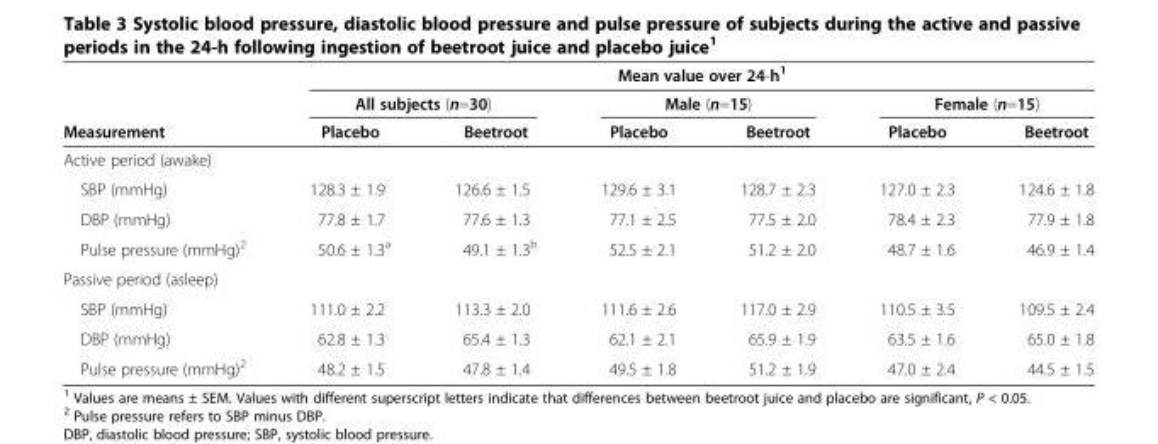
<table><thead><tr><td rowspan="3">Measurement</td><td colspan="6">Mean value over 24-h<sup>1</sup></td></tr><tr><td colspan="2">All subjects (n=30)</td><td colspan="2">Male (n=15)</td><td colspan="2">Female (n=15)</td></tr><tr><td>Placebo</td><td>Beetroot</td><td>Placebo</td><td>Beetroot</td><td>Placebo</td><td>Beetroot</td></tr></thead><tbody><tr><td colspan="7">Active period (awake)</td></tr><tr><td>SBP (mmHg)</td><td>128.3 ± 1.9</td><td>126.6 ± 1.5</td><td>129.6 ± 3.1</td><td>128.7 ± 2.3</td><td>127.0 ± 2.3</td><td>124.6 ± 1.8</td></tr><tr><td>DBP (mmHg)</td><td>77.8 ± 1.7</td><td>77.6 ± 1.3</td><td>77.1 ± 2.5</td><td>77.5 ± 2.0</td><td>78.4 ± 2.3</td><td>77.9 ± 1.8</td></tr><tr><td>Pulse pressure (mmHg)<sup>2</sup></td><td>50.6 ± 1.3<sup>a</sup></td><td>49.1 ± 1.3<sup>b</sup></td><td>52.5 ± 2.1</td><td>51.2 ± 2.0</td><td>48.7 ± 1.6</td><td>46.9 ± 1.4</td></tr><tr><td colspan="7">Passive period (asleep)</td></tr><tr><td>SBP (mmHg)</td><td>111.0 ± 2.2</td><td>113.3 ± 2.0</td><td>111.6 ± 2.6</td><td>117.0 ± 2.9</td><td>110.5 ± 3.5</td><td>109.5 ± 2.4</td></tr><tr><td>DBP (mmHg)</td><td>62.8 ± 1.3</td><td>65.4 ± 1.3</td><td>62.1 ± 2.1</td><td>65.9 ± 1.9</td><td>63.5 ± 1.6</td><td>65.0 ± 1.8</td></tr><tr><td>Pulse pressure (mmHg)<sup>2</sup></td><td>48.2 ± 1.5</td><td>47.8 ± 1.4</td><td>49.5 ± 1.8</td><td>51.2 ± 1.9</td><td>47.0 ± 2.4</td><td>44.5 ± 1.5</td></tr></tbody></table>